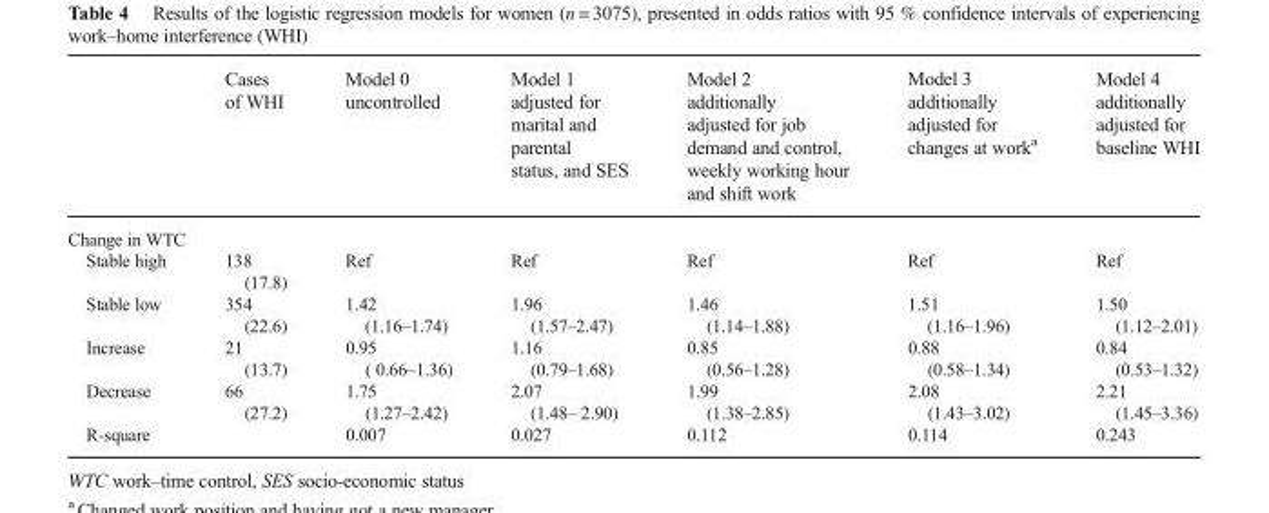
<table><thead><tr><td></td><td>Cases of WHI</td><td>Model 0 uncontrolled</td><td>Model 1 adjusted for marital and parental status, and SES</td><td>Model 2 additionally adjusted for job demand and control, weekly working hour and shift work</td><td>Model 3 additionally adjusted for changes at work<sup>a</sup></td><td>Model 4 additionally adjusted for baseline WHI</td></tr></thead><tbody><tr><td colspan="7">Change in WTC</td></tr><tr><td>Stable high</td><td>138 (17.8)</td><td>Ref</td><td>Ref</td><td>Ref</td><td>Ref</td><td>Ref</td></tr><tr><td>Stable low</td><td>354 (22.6)</td><td>1.42 (1.16–1.74)</td><td>1.96 (1.57–2.47)</td><td>1.46 (1.14–1.88)</td><td>1.51 (1.16–1.96)</td><td>1.50 (1.12–2.01)</td></tr><tr><td>Increase</td><td>21 (13.7)</td><td>0.95 ( 0.66–1.36)</td><td>1.16 (0.79–1.68)</td><td>0.85 (0.56–1.28)</td><td>0.88 (0.58–1.34)</td><td>0.84 (0.53–1.32)</td></tr><tr><td>Decrease</td><td>66 (27.2)</td><td>1.75 (1.27–2.42)</td><td>2.07 (1.48– 2.90)</td><td>1.99 (1.38–2.85)</td><td>2.08 (1.43–3.02)</td><td>2.21 (1.45–3.36)</td></tr><tr><td>R-square</td><td></td><td>0.007</td><td>0.027</td><td>0.112</td><td>0.114</td><td>0.243</td></tr></tbody></table>